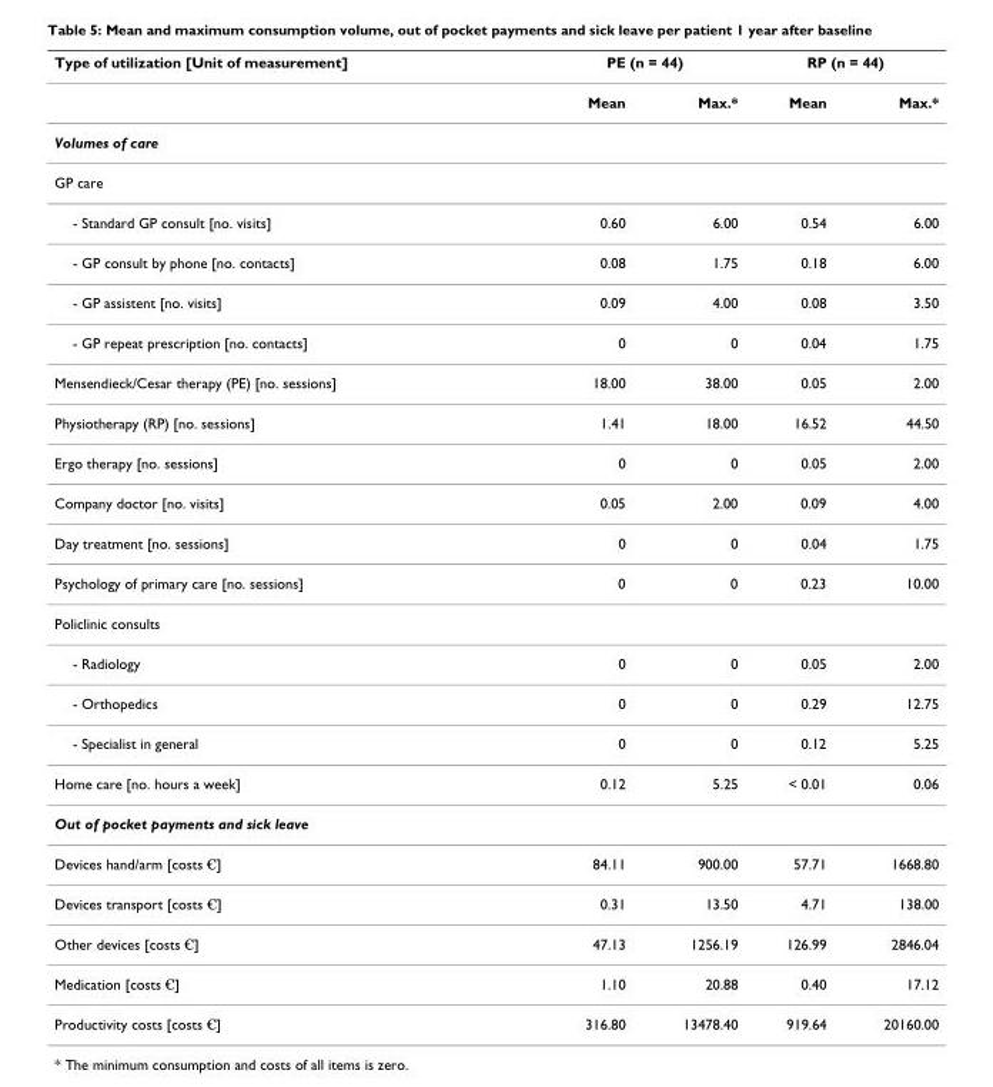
<table><thead><tr><td rowspan="2">Type of utilization [Unit of measurement]</td><td colspan="2">PE (n = 44)</td><td colspan="2">RP (n = 44)</td></tr><tr><td>Mean</td><td>Max.*</td><td>Mean</td><td>Max.*</td></tr></thead><tbody><tr><td colspan="5">Volumes of care</td></tr><tr><td colspan="5">GP care</td></tr><tr><td>- Standard GP consult [no. visits]</td><td>0.60</td><td>6.00</td><td>0.54</td><td>6.00</td></tr><tr><td>- GP consult by phone [no. contacts]</td><td>0.08</td><td>1.75</td><td>0.18</td><td>6.00</td></tr><tr><td>- GP assistent [no. visits]</td><td>0.09</td><td>4.00</td><td>0.08</td><td>3.50</td></tr><tr><td>- GP repeat prescription [no. contacts]</td><td>0</td><td>0</td><td>0.04</td><td>1.75</td></tr><tr><td>Mensendieck/Cesar therapy (PE) [no. sessions]</td><td>18.00</td><td>38.00</td><td>0.05</td><td>2.00</td></tr><tr><td>Physiotherapy (RP) [no. sessions]</td><td>1.41</td><td>18.00</td><td>16.52</td><td>44.50</td></tr><tr><td>Ergo therapy [no. sessions]</td><td>0</td><td>0</td><td>0.05</td><td>2.00</td></tr><tr><td>Company doctor [no. visits]</td><td>0.05</td><td>2.00</td><td>0.09</td><td>4.00</td></tr><tr><td>Day treatment [no. sessions]</td><td>0</td><td>0</td><td>0.04</td><td>1.75</td></tr><tr><td>Psychology of primary care [no. sessions]</td><td>0</td><td>0</td><td>0.23</td><td>10.00</td></tr><tr><td colspan="5">Policlinic consults</td></tr><tr><td>- Radiology</td><td>0</td><td>0</td><td>0.05</td><td>2.00</td></tr><tr><td>- Orthopedics</td><td>0</td><td>0</td><td>0.29</td><td>12.75</td></tr><tr><td>- Specialist in general</td><td>0</td><td>0</td><td>0.12</td><td>5.25</td></tr><tr><td>Home care [no. hours a week]</td><td>0.12</td><td>5.25</td><td>&lt; 0.01</td><td>0.06</td></tr><tr><td colspan="5">Out of pocket payments and sick leave</td></tr><tr><td>Devices hand/arm [costs €]</td><td>84.11</td><td>900.00</td><td>57.71</td><td>1668.80</td></tr><tr><td>Devices transport [costs €]</td><td>0.31</td><td>13.50</td><td>4.71</td><td>138.00</td></tr><tr><td>Other devices [costs €]</td><td>47.13</td><td>1256.19</td><td>126.99</td><td>2846.04</td></tr><tr><td>Medication [costs €]</td><td>1.10</td><td>20.88</td><td>0.40</td><td>17.12</td></tr><tr><td>Productivity costs [costs €]</td><td>316.80</td><td>13478.40</td><td>919.64</td><td>20160.00</td></tr></tbody></table>